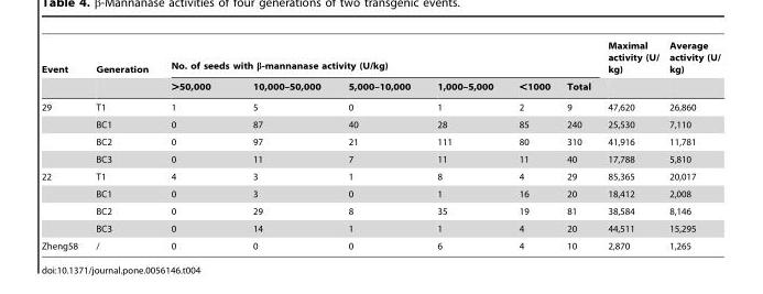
<table><thead><tr><td rowspan="2">Event</td><td rowspan="2">Generation</td><td colspan="6">No. of seeds with β-mannanase activity (U/kg)</td><td rowspan="2">Maximal activity (U/ kg)</td><td rowspan="2">Average activity (U/ kg)</td></tr><tr><td>&gt;50,000</td><td>10,000–50,000</td><td>5,000–10,000</td><td>1,000–5,000</td><td>&lt;1000</td><td>Total</td></tr></thead><tbody><tr><td rowspan="4">29</td><td>T1</td><td>1</td><td>5</td><td>0</td><td>1</td><td>2</td><td>9</td><td>47,620</td><td>26,860</td></tr><tr><td>BC1</td><td>0</td><td>87</td><td>40</td><td>28</td><td>85</td><td>240</td><td>25,530</td><td>7,110</td></tr><tr><td>BC2</td><td>0</td><td>97</td><td>21</td><td>111</td><td>80</td><td>310</td><td>41,916</td><td>11,781</td></tr><tr><td>BC3</td><td>0</td><td>11</td><td>7</td><td>11</td><td>11</td><td>40</td><td>17,788</td><td>5,810</td></tr><tr><td rowspan="4">22</td><td>T1</td><td>4</td><td>3</td><td>1</td><td>8</td><td>4</td><td>29</td><td>85,365</td><td>20,017</td></tr><tr><td>BC1</td><td>0</td><td>3</td><td>0</td><td>1</td><td>16</td><td>20</td><td>18,412</td><td>2,008</td></tr><tr><td>BC2</td><td>0</td><td>29</td><td>8</td><td>35</td><td>19</td><td>81</td><td>38,584</td><td>8,146</td></tr><tr><td>BC3</td><td>0</td><td>14</td><td>1</td><td>1</td><td>4</td><td>20</td><td>44,511</td><td>15,295</td></tr><tr><td>Zheng58</td><td>/</td><td>0</td><td>0</td><td>0</td><td>6</td><td>4</td><td>10</td><td>2,870</td><td>1,265</td></tr></tbody></table>